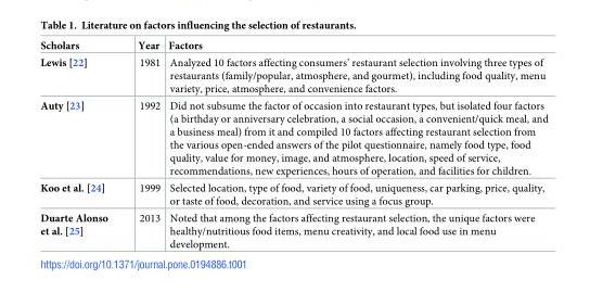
<table><thead><tr><td>Scholars</td><td>Year</td><td>Factors</td></tr></thead><tbody><tr><td>Lewis [22]</td><td>1981</td><td>Analyzed 10 factors affecting consumers’ restaurant selection involving three types of restaurants (family/popular, atmosphere, and gourmet), including food quality, menu variety, price, atmosphere, and convenience factors.</td></tr><tr><td>Auty [23]</td><td>1992</td><td>Did not subsume the factor of occasion into restaurant types, but isolated four factors (a birthday or anniversary celebration, a social occasion, a convenient/quick meal, and a business meal) from it and compiled 10 factors affecting restaurant selection from the various open-ended answers of the pilot questionnaire, namely food type, food quality, value for money, image, and atmosphere, location, speed of service, recommendations, new experiences, hours of operation, and facilities for children.</td></tr><tr><td>Koo et al. [24]</td><td>1999</td><td>Selected location, type of food, variety of food, uniqueness, car parking, price, quality, or taste of food, decoration, and service using a focus group.</td></tr><tr><td>Duarte Alonso et al. [25]</td><td>2013</td><td>Noted that among the factors affecting restaurant selection, the unique factors were healthy/nutritious food items, menu creativity, and local food use in menu development.</td></tr></tbody></table>